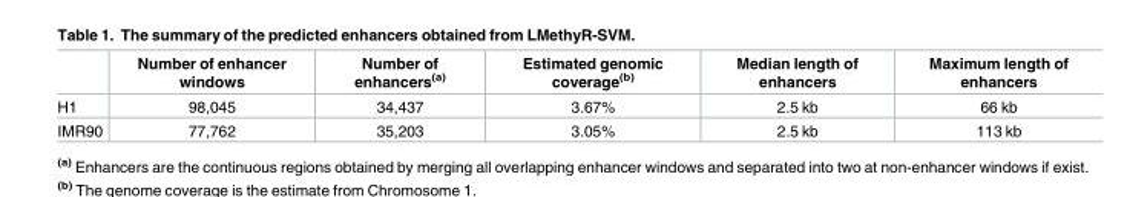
<table><thead><tr><td></td><td>Number of enhancer windows</td><td>Number of enhancers<sup>(a)</sup></td><td>Estimated genomic coverage<sup>(b)</sup></td><td>Median length of enhancers</td><td>Maximum length of enhancers</td></tr></thead><tbody><tr><td>H1</td><td>98,045</td><td>34,437</td><td>3.67%</td><td>2.5 kb</td><td>66 kb</td></tr><tr><td>IMR90</td><td>77,762</td><td>35,203</td><td>3.05%</td><td>2.5 kb</td><td>113 kb</td></tr></tbody></table>